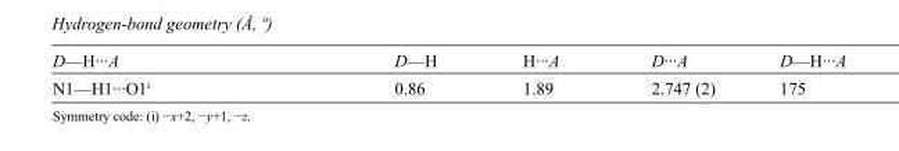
<table><tbody><tr><td>D—H···A</td><td>D—H</td><td>H···A</td><td>D···A</td><td>D—H···A</td></tr><tr><td>N1—H1···O1<sup>i</sup></td><td>0.86</td><td>1.89</td><td>2.747 (2)</td><td>175</td></tr></tbody></table>